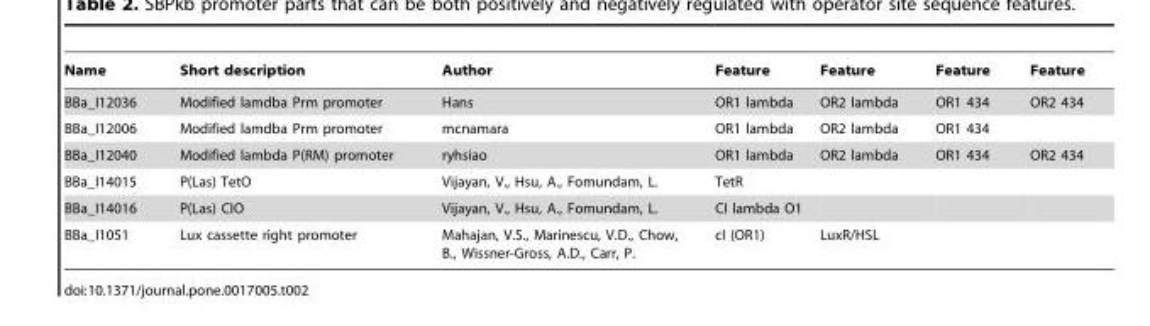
<table><thead><tr><td>Name</td><td>Short description</td><td>Author</td><td>Feature</td><td>Feature</td><td>Feature</td><td>Feature</td></tr></thead><tbody><tr><td>BBa_I12036</td><td>Modified lamdba Prm promoter</td><td>Hans</td><td>OR1 lambda</td><td>OR2 lambda</td><td>OR1 434</td><td>OR2 434</td></tr><tr><td>BBa_I12006</td><td>Modified lamdba Prm promoter</td><td>mcnamara</td><td>OR1 lambda</td><td>OR2 lambda</td><td>OR1 434</td><td></td></tr><tr><td>BBa_I12040</td><td>Modified lambda P(RM) promoter</td><td>ryhsiao</td><td>OR1 lambda</td><td>OR2 lambda</td><td>OR1 434</td><td>OR2 434</td></tr><tr><td>BBa_I14015</td><td>P(Las) TetO</td><td>Vijayan, V., Hsu, A., Fomundam, L.</td><td>TetR</td><td></td><td></td><td></td></tr><tr><td>BBa_I14016</td><td>P(Las) CIO</td><td>Vijayan, V., Hsu, A., Fomundam, L.</td><td>CI lambda O1</td><td></td><td></td><td></td></tr><tr><td>BBa_I1051</td><td>Lux cassette right promoter</td><td>Mahajan, V.S., Marinescu, V.D., Chow, B., Wissner-Gross, A.D., Carr, P.</td><td>cI (OR1)</td><td>LuxR/HSL</td><td></td><td></td></tr></tbody></table>